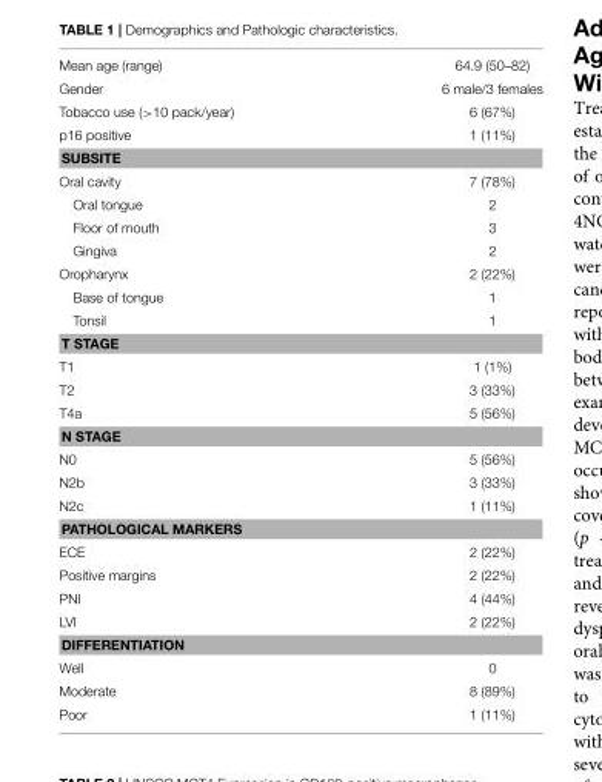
<table><tbody><tr><td>Mean age (range)</td><td>64.9 (50–82)</td></tr><tr><td>Gender</td><td>6 male/3 females</td></tr><tr><td>Tobacco use (&gt;10 pack/year)</td><td>6 (67%)</td></tr><tr><td>p16 positive</td><td>1 (11%)</td></tr><tr><td colspan="2">SUBSITE</td></tr><tr><td>Oral cavity</td><td>7 (78%)</td></tr><tr><td>Oral tongue</td><td>2</td></tr><tr><td>Floor of mouth</td><td>3</td></tr><tr><td>Gingiva</td><td>2</td></tr><tr><td>Oropharynx</td><td>2 (22%)</td></tr><tr><td>Base of tongue</td><td>1</td></tr><tr><td>Tonsil</td><td>1</td></tr><tr><td colspan="2">T STAGE</td></tr><tr><td>T1</td><td>1 (1%)</td></tr><tr><td>T2</td><td>3 (33%)</td></tr><tr><td>T4a</td><td>5 (56%)</td></tr><tr><td colspan="2">N STAGE</td></tr><tr><td>N0</td><td>5 (56%)</td></tr><tr><td>N2b</td><td>3 (33%)</td></tr><tr><td>N2c</td><td>1 (11%)</td></tr><tr><td colspan="2">PATHOLOGICAL MARKERS</td></tr><tr><td>ECE</td><td>2 (22%)</td></tr><tr><td>Positive margins</td><td>2 (22%)</td></tr><tr><td>PNI</td><td>4 (44%)</td></tr><tr><td>LVI</td><td>2 (22%)</td></tr><tr><td colspan="2">DIFFERENTIATION</td></tr><tr><td>Well</td><td>0</td></tr><tr><td>Moderate</td><td>8 (89%)</td></tr><tr><td>Poor</td><td>1 (11%)</td></tr></tbody></table>